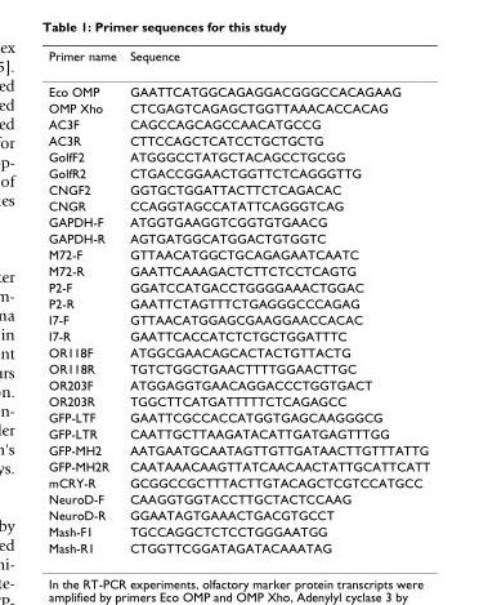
<table><thead><tr><td>Primer name</td><td>Sequence</td></tr></thead><tbody><tr><td>Eco OMP</td><td>GAATTCATGGCAGAGGACGGGCCACAGAAG</td></tr><tr><td>OMP Xho</td><td>CTCGAGTCAGAGCTGGTTAAACACCACAG</td></tr><tr><td>AC3F</td><td>CAGCCAGCAGCCAACATGCCG</td></tr><tr><td>AC3R</td><td>CTTCCAGCTCATCCTGCTGCTG</td></tr><tr><td>GolfF2</td><td>ATGGGCCTATGCTACAGCCTGCGG</td></tr><tr><td>GolfR2</td><td>CTGACCGGAACTGGTTCTCAGGGTTG</td></tr><tr><td>CNGF2</td><td>GGTGCTGGATTACTTCTCAGACAC</td></tr><tr><td>CNGR</td><td>CCAGGTAGCCATATTCAGGGTCAG</td></tr><tr><td>GAPDH-F</td><td>ATGGTGAAGGTCGGTGTGAACG</td></tr><tr><td>GAPDH-R</td><td>AGTGATGGCATGGACTGTGGTC</td></tr><tr><td>M72-F</td><td>GTTAACATGGCTGCAGAGAATCAATC</td></tr><tr><td>M72-R</td><td>GAATTCAAAGACTCTTCTCCTCAGTG</td></tr><tr><td>P2-F</td><td>GGATCCATGACCTGGGGAAACTGGAC</td></tr><tr><td>P2-R</td><td>GAATTCTAGTTTCTGAGGGCCCAGAG</td></tr><tr><td>I7-F</td><td>GTTAACATGGAGCGAAGGAACCACAC</td></tr><tr><td>I7-R</td><td>GAATTCACCATCTCTGCTGGATTTC</td></tr><tr><td>OR118F</td><td>ATGGCGAACAGCACTACTGTTACTG</td></tr><tr><td>OR118R</td><td>TGTCTGGCTGAACTTTTGGAACTTGC</td></tr><tr><td>OR203F</td><td>ATGGAGGTGAACAGGACCCTGGTGACT</td></tr><tr><td>OR203R</td><td>TGGCTTCATGATTTTTCTCAGAGCC</td></tr><tr><td>GFP-LTF</td><td>GAATTCGCCACCATGGTGAGCAAGGGCG</td></tr><tr><td>GFP-LTR</td><td>CAATTGCTTAAGATACATTGATGAGTTTGG</td></tr><tr><td>GFP-MH2</td><td>AATGAATGCAATAGTTGTTGATAACTTGTTTATTG</td></tr><tr><td>GFP-MH2R</td><td>CAATAAACAAGTTATCAACAACTATTGCATTCATT</td></tr><tr><td>mCRY-R</td><td>GCGGCCGCTTTACTTGTACAGCTCGTCCATGCC</td></tr><tr><td>NeuroD-F</td><td>CAAGGTGGTACCTTGCTACTCCAAG</td></tr><tr><td>NeuroD-R</td><td>GGAATAGTGAAACTGACGTGCCT</td></tr><tr><td>Mash-F1</td><td>TGCCAGGCTCTCCTGGGAATGG</td></tr><tr><td>Mash-R1</td><td>CTGGTTCGGATAGATACAAATAG</td></tr></tbody></table>